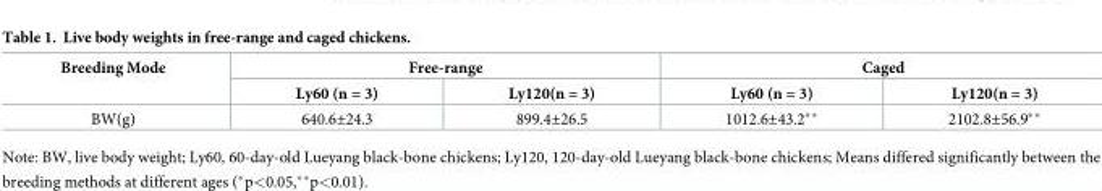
<table><thead><tr><td rowspan="2">Breeding Mode</td><td colspan="2">Free-range</td><td colspan="2">Caged</td></tr><tr><td>Ly60 (n = 3)</td><td>Ly120(n = 3)</td><td>Ly60 (n = 3)</td><td>Ly120(n = 3)</td></tr></thead><tbody><tr><td>BW(g)</td><td>640.6±24.3</td><td>899.4±26.5</td><td>1012.6±43.2**</td><td>2102.8±56.9**</td></tr></tbody></table>